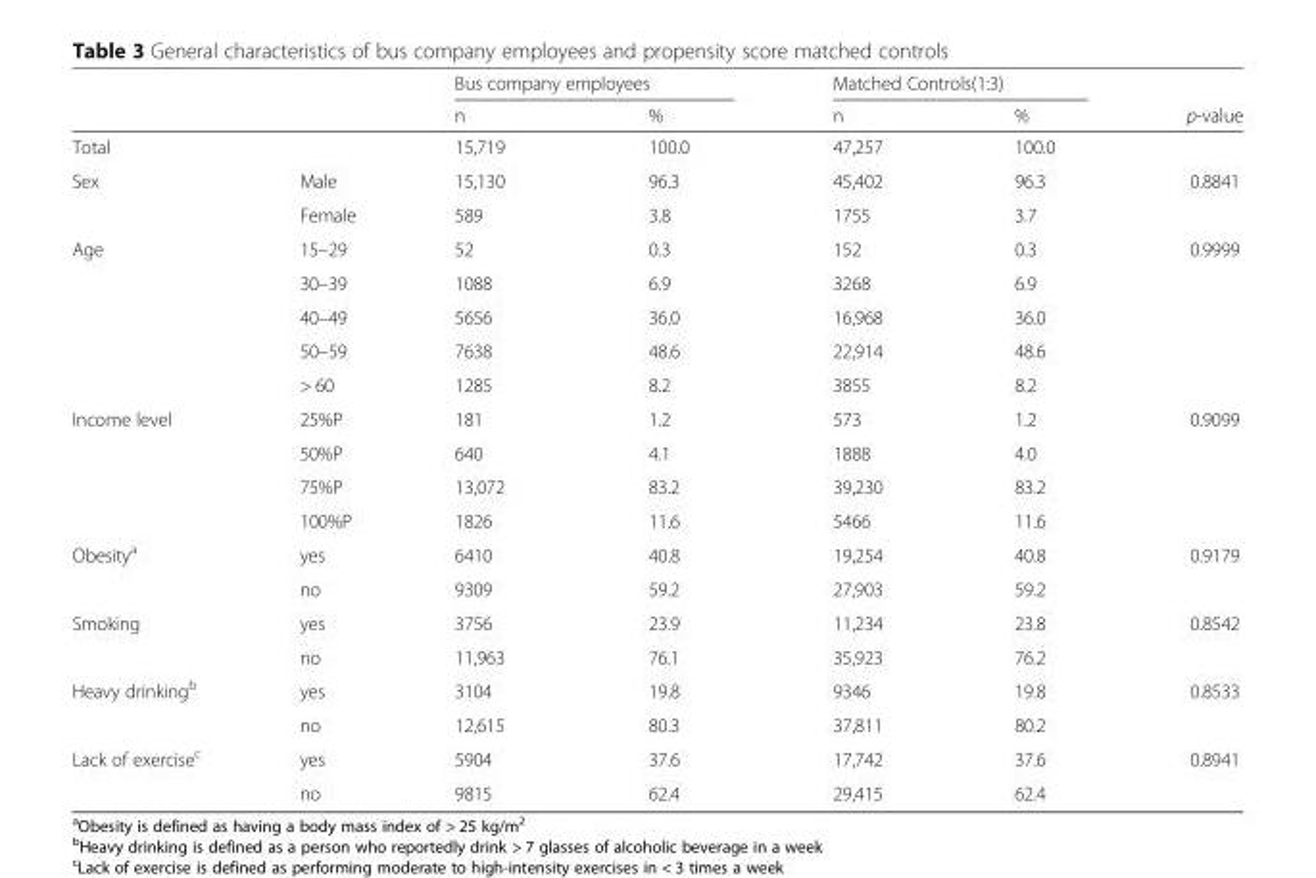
<table><thead><tr><td rowspan="2"></td><td rowspan="2"></td><td colspan="2">Bus company employees</td><td colspan="2">Matched Controls(1:3)</td><td rowspan="2">p-value</td></tr><tr><td>n</td><td>%</td><td>n</td><td>%</td></tr></thead><tbody><tr><td>Total</td><td></td><td>15,719</td><td>100.0</td><td>47,257</td><td>100.0</td><td></td></tr><tr><td rowspan="2">Sex</td><td>Male</td><td>15,130</td><td>96.3</td><td>45,402</td><td>96.3</td><td>0.8841</td></tr><tr><td>Female</td><td>589</td><td>3.8</td><td>1755</td><td>3.7</td><td></td></tr><tr><td rowspan="5">Age</td><td>15–29</td><td>52</td><td>0.3</td><td>152</td><td>0.3</td><td>0.9999</td></tr><tr><td>30–39</td><td>1088</td><td>6.9</td><td>3268</td><td>6.9</td><td></td></tr><tr><td>40–49</td><td>5656</td><td>36.0</td><td>16,968</td><td>36.0</td><td></td></tr><tr><td>50–59</td><td>7638</td><td>48.6</td><td>22,914</td><td>48.6</td><td></td></tr><tr><td>&gt; 60</td><td>1285</td><td>8.2</td><td>3855</td><td>8.2</td><td></td></tr><tr><td rowspan="4">Income level</td><td>25%P</td><td>181</td><td>1.2</td><td>573</td><td>1.2</td><td>0.9099</td></tr><tr><td>50%P</td><td>640</td><td>4.1</td><td>1888</td><td>4.0</td><td></td></tr><tr><td>75%P</td><td>13,072</td><td>83.2</td><td>39,230</td><td>83.2</td><td></td></tr><tr><td>100%P</td><td>1826</td><td>11.6</td><td>5466</td><td>11.6</td><td></td></tr><tr><td rowspan="2">Obesity<sup>a</sup></td><td>yes</td><td>6410</td><td>40.8</td><td>19,254</td><td>40.8</td><td>0.9179</td></tr><tr><td>no</td><td>9309</td><td>59.2</td><td>27,903</td><td>59.2</td><td></td></tr><tr><td rowspan="2">Smoking</td><td>yes</td><td>3756</td><td>23.9</td><td>11,234</td><td>23.8</td><td>0.8542</td></tr><tr><td>no</td><td>11,963</td><td>76.1</td><td>35,923</td><td>76.2</td><td></td></tr><tr><td rowspan="2">Heavy drinking<sup>b</sup></td><td>yes</td><td>3104</td><td>19.8</td><td>9346</td><td>19.8</td><td>0.8533</td></tr><tr><td>no</td><td>12,615</td><td>80.3</td><td>37,811</td><td>80.2</td><td></td></tr><tr><td rowspan="2">Lack of exercise<sup>c</sup></td><td>yes</td><td>5904</td><td>37.6</td><td>17,742</td><td>37.6</td><td>0.8941</td></tr><tr><td>no</td><td>9815</td><td>62.4</td><td>29,415</td><td>62.4</td><td></td></tr></tbody></table>